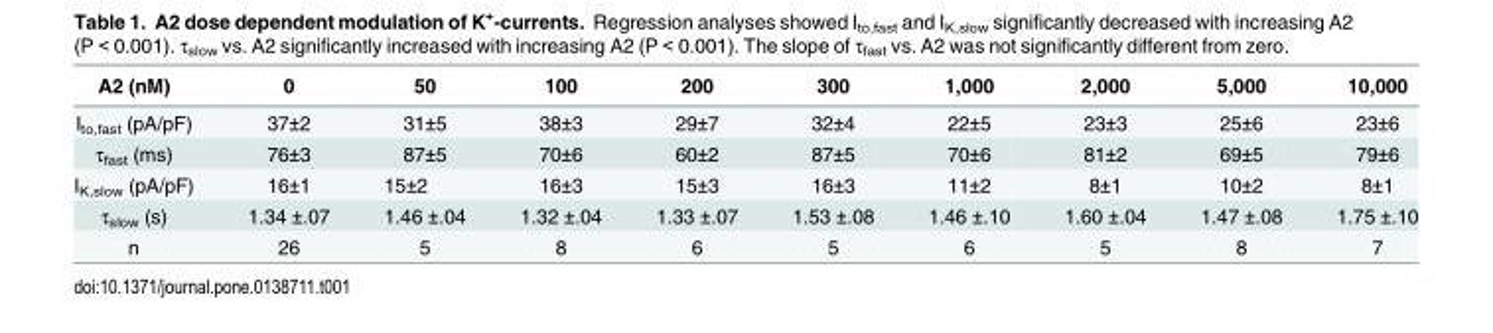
<table><thead><tr><td>A2 (nM)</td><td>0</td><td>50</td><td>100</td><td>200</td><td>300</td><td>1,000</td><td>2,000</td><td>5,000</td><td>10,000</td></tr></thead><tbody><tr><td>I<sub>to,fast</sub> (pA/pF)</td><td>37±2</td><td>31±5</td><td>38±3</td><td>29±7</td><td>32±4</td><td>22±5</td><td>23±3</td><td>25±6</td><td>23±6</td></tr><tr><td>τ<sub>fast</sub> (ms)</td><td>76±3</td><td>87±5</td><td>70±6</td><td>60±2</td><td>87±5</td><td>70±6</td><td>81±2</td><td>69±5</td><td>79±6</td></tr><tr><td>I<sub>K,slow</sub> (pA/pF)</td><td>16±1</td><td>15±2</td><td>16±3</td><td>15±3</td><td>16±3</td><td>11±2</td><td>8±1</td><td>10±2</td><td>8±1</td></tr><tr><td>τ<sub>slow</sub> (s)</td><td>1.34 ±.07</td><td>1.46 ±.04</td><td>1.32 ±.04</td><td>1.33 ±.07</td><td>1.53 ±.08</td><td>1.46 ±.10</td><td>1.60 ±.04</td><td>1.47 ±.08</td><td>1.75 ±.10</td></tr><tr><td>n</td><td>26</td><td>5</td><td>8</td><td>6</td><td>5</td><td>6</td><td>5</td><td>8</td><td>7</td></tr></tbody></table>